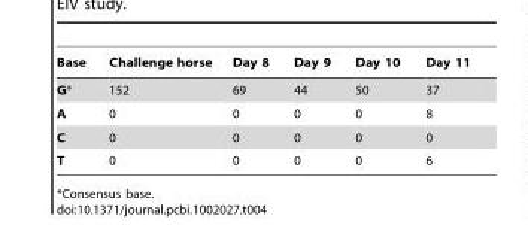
<table><thead><tr><td>Base</td><td>Challenge horse</td><td>Day 8</td><td>Day 9</td><td>Day 10</td><td>Day 11</td></tr></thead><tbody><tr><td>G*</td><td>152</td><td>69</td><td>44</td><td>50</td><td>37</td></tr><tr><td>A</td><td>0</td><td>0</td><td>0</td><td>0</td><td>8</td></tr><tr><td>C</td><td>0</td><td>0</td><td>0</td><td>0</td><td>0</td></tr><tr><td>T</td><td>0</td><td>0</td><td>0</td><td>0</td><td>6</td></tr></tbody></table>